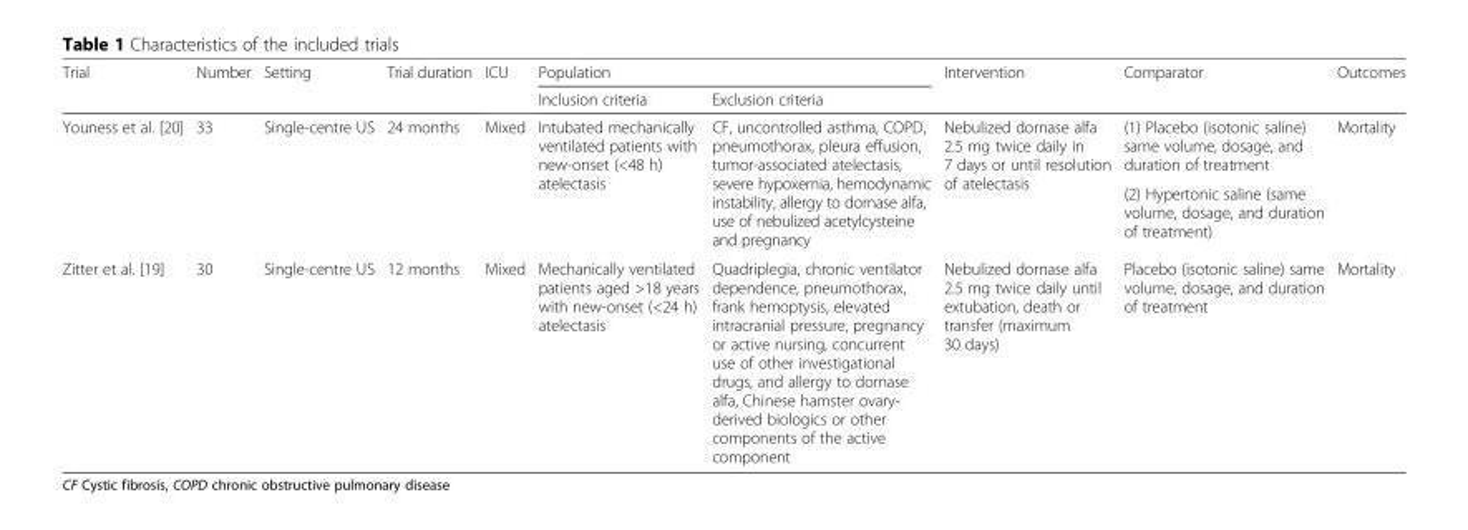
<table><thead><tr><td rowspan="2">Trial</td><td rowspan="2">Number</td><td rowspan="2">Setting</td><td rowspan="2">Trial duration</td><td rowspan="2">ICU</td><td colspan="2">Population</td><td rowspan="2">Intervention</td><td rowspan="2">Comparator</td><td rowspan="2">Outcomes</td></tr><tr><td>Inclusion criteria</td><td>Exclusion criteria</td></tr></thead><tbody><tr><td rowspan="2">Youness et al. [20]</td><td rowspan="2">33</td><td rowspan="2">Single-centre US</td><td rowspan="2">24 months</td><td rowspan="2">Mixed</td><td rowspan="2">Intubated mechanically ventilated patients with new-onset (&lt;48 h) atelectasis</td><td rowspan="2">CF, uncontrolled asthma, COPD, pneumothorax, pleura effusion, tumor-associated atelectasis, severe hypoxemia, hemodynamic instability, allergy to dornase alfa, use of nebulized acetylcysteine and pregnancy</td><td rowspan="2">Nebulized dornase alfa 2.5 mg twice daily in 7 days or until resolution of atelectasis</td><td>(1) Placebo (isotonic saline) same volume, dosage, and duration of treatment</td><td rowspan="2">Mortality</td></tr><tr><td>(2) Hypertonic saline (same volume, dosage, and duration of treatment)</td></tr><tr><td>Zitter et al. [19]</td><td>30</td><td>Single-centre US</td><td>12 months</td><td>Mixed</td><td>Mechanically ventilated patients aged &gt;18 years with new-onset (&lt;24 h) atelectasis</td><td>Quadriplegia, chronic ventilator dependence, pneumothorax, frank hemoptysis, elevated intracranial pressure, pregnancy or active nursing, concurrent use of other investigational drugs, and allergy to dornase alfa, Chinese hamster ovary- derived biologics or other components of the active component</td><td>Nebulized dornase alfa 2.5 mg twice daily until extubation, death or transfer (maximum 30 days)</td><td>Placebo (isotonic saline) same volume, dosage, and duration of treatment</td><td>Mortality</td></tr></tbody></table>